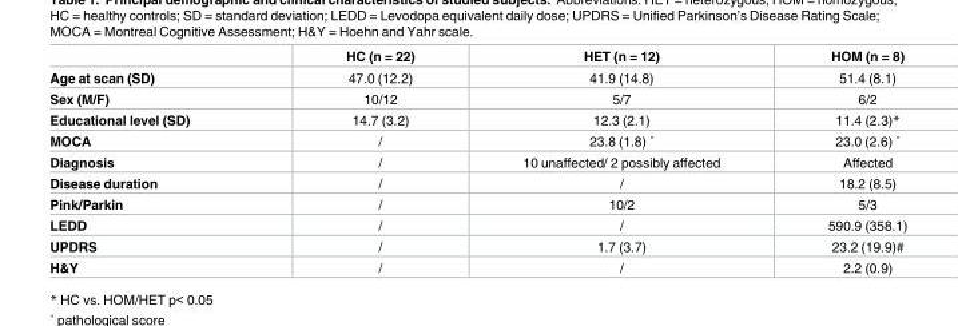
<table><thead><tr><td></td><td>HC (n = 22)</td><td>HET (n = 12)</td><td>HOM (n = 8)</td></tr></thead><tbody><tr><td>Age at scan (SD)</td><td>47.0 (12.2)</td><td>41.9 (14.8)</td><td>51.4 (8.1)</td></tr><tr><td>Sex (M/F)</td><td>10/12</td><td>5/7</td><td>6/2</td></tr><tr><td>Educational level (SD)</td><td>14.7 (3.2)</td><td>12.3 (2.1)</td><td>11.4 (2.3)*</td></tr><tr><td>MOCA</td><td>/</td><td>23.8 (1.8) ˚</td><td>23.0 (2.6) ˚</td></tr><tr><td>Diagnosis</td><td>/</td><td>10 unaffected/ 2 possibly affected</td><td>Affected</td></tr><tr><td>Disease duration</td><td>/</td><td>/</td><td>18.2 (8.5)</td></tr><tr><td>Pink/Parkin</td><td>/</td><td>10/2</td><td>5/3</td></tr><tr><td>LEDD</td><td>/</td><td>/</td><td>590.9 (358.1)</td></tr><tr><td>UPDRS</td><td>/</td><td>1.7 (3.7)</td><td>23.2 (19.9)#</td></tr><tr><td>H&amp;Y</td><td>/</td><td>/</td><td>2.2 (0.9)</td></tr></tbody></table>